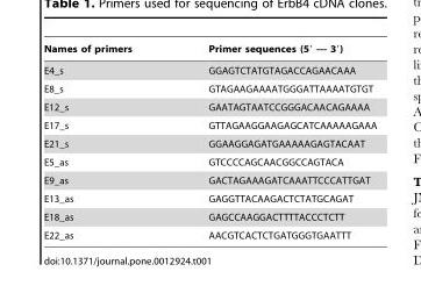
<table><thead><tr><td>Names of primers</td><td>Primer sequences (59 --- 39)</td></tr></thead><tbody><tr><td>E4_s</td><td>GGAGTCTATGTAGACCAGAACAAA</td></tr><tr><td>E8_s</td><td>GTAGAAGAAAATGGGATTAAAATGTGT</td></tr><tr><td>E12_s</td><td>GAATAGTAATCCGGGACAACAGAAAA</td></tr><tr><td>E17_s</td><td>GTTAGAAGGAAGAGCATCAAAAAGAAA</td></tr><tr><td>E21_s</td><td>GGAAGGAGATGAAAAAGAGTACAAT</td></tr><tr><td>E5_as</td><td>GTCCCCAGCAACGGCCAGTACA</td></tr><tr><td>E9_as</td><td>GACTAGAAAGATCAAATTCCCATTGAT</td></tr><tr><td>E13_as</td><td>GAGGTTACAAGACTCTATGCAGAT</td></tr><tr><td>E18_as</td><td>GAGCCAAGGACTTTTACCCTCTT</td></tr><tr><td>E22_as</td><td>AACGTCACTCTGATGGGTGAATTT</td></tr></tbody></table>